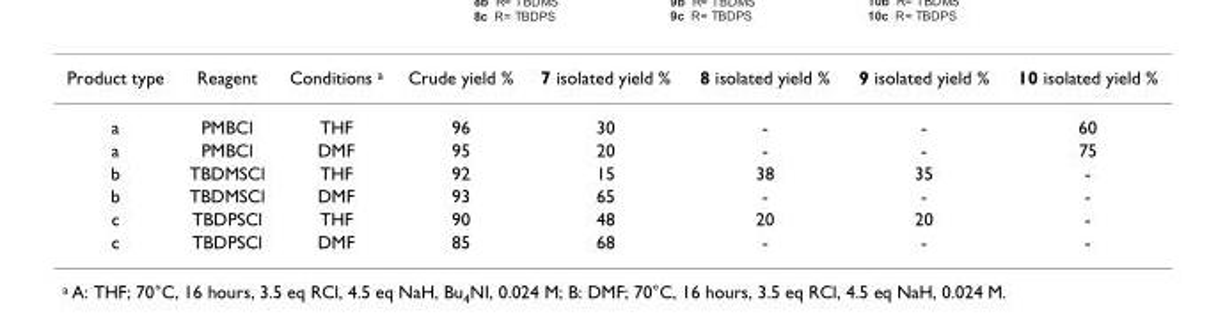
<table><tbody><tr><td>Product type</td><td>Reagent</td><td>Conditions <sup>a</sup></td><td>Crude yield %</td><td>7 isolated yield %</td><td>8 isolated yield %</td><td>9 isolated yield %</td><td>10 isolated yield %</td></tr><tr><td>a</td><td>PMBCl</td><td>THF</td><td>96</td><td>30</td><td>-</td><td>-</td><td>60</td></tr><tr><td>a</td><td>PMBCl</td><td>DMF</td><td>95</td><td>20</td><td>-</td><td>-</td><td>75</td></tr><tr><td>b</td><td>TBDMSCl</td><td>THF</td><td>92</td><td>15</td><td>38</td><td>35</td><td>-</td></tr><tr><td>b</td><td>TBDMSCl</td><td>DMF</td><td>93</td><td>65</td><td>-</td><td>-</td><td>-</td></tr><tr><td>c</td><td>TBDPSCl</td><td>THF</td><td>90</td><td>48</td><td>20</td><td>20</td><td>-</td></tr><tr><td>c</td><td>TBDPSCl</td><td>DMF</td><td>85</td><td>68</td><td>-</td><td>-</td><td>-</td></tr></tbody></table>